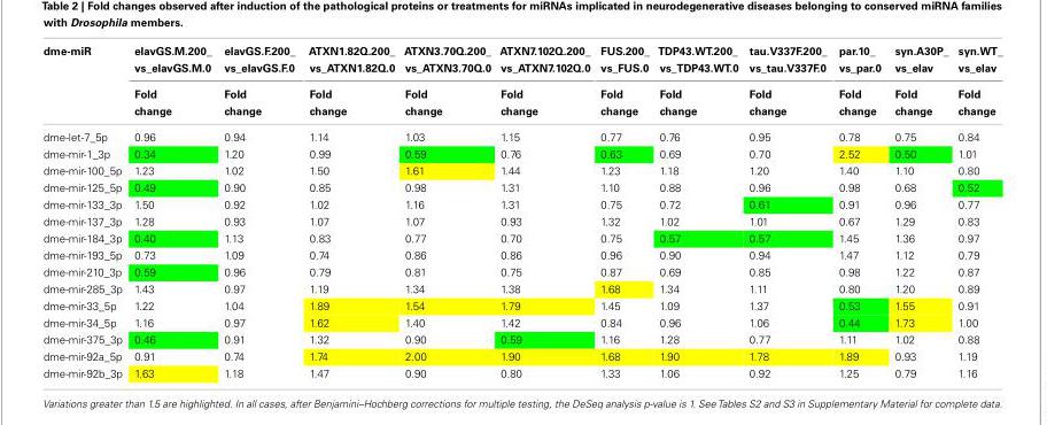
<table><thead><tr><td rowspan="2">dme-miR</td><td rowspan="2">elavGS.M.200_ vs_elavGS.M.0 Fold change</td><td rowspan="2">elavGS.F.200_ vs_elavGS.F.0 Fold change</td><td rowspan="2">ATXN1.82Q.200_ vs_ATXN1.82Q.0 Fold change</td><td rowspan="2">ATXN3.70Q.200_ vs_ATXN3.70Q.0 Fold change</td><td rowspan="2">ATXN7.102Q.200_ vs_ATXN7.102Q.0 Fold change</td><td rowspan="2">FUS.200_ vs_FUS.0 Fold change</td><td rowspan="2">TDP43.WT.200_ vs_TDP43.WT.0 Fold change</td><td rowspan="2">tau.V337F.200_ vs_tau.V337F.0 Fold change</td><td rowspan="2">par.10_ vs_par.0 Fold change</td><td rowspan="2">syn.A30P_ vs_elav Fold change</td><td rowspan="2">syn.WT_ vs_elav Fold change</td></tr><tr></tr></thead><tbody><tr><td>dme-let-7_5p</td><td>0.96</td><td>0.94</td><td>1.14</td><td>1.03</td><td>1.15</td><td>0.77</td><td>0.76</td><td>0.95</td><td>0.78</td><td>0.75</td><td>0.84</td></tr><tr><td>dme-mir-1_3p</td><td>0.34</td><td>1.20</td><td>0.99</td><td>0.59</td><td>0.76</td><td>0.63</td><td>0.69</td><td>0.70</td><td>2.52</td><td>0.50</td><td>1.01</td></tr><tr><td>dme-mir-100_5p</td><td>1.23</td><td>1.02</td><td>1.50</td><td>1.61</td><td>1.44</td><td>1.23</td><td>1.18</td><td>1.20</td><td>1.40</td><td>1.10</td><td>0.80</td></tr><tr><td>dme-mir-125_5p</td><td>0.49</td><td>0.90</td><td>0.85</td><td>0.98</td><td>1.31</td><td>1.10</td><td>0.88</td><td>0.96</td><td>0.98</td><td>0.68</td><td>0.52</td></tr><tr><td>dme-mir-133_3p</td><td>1.50</td><td>0.92</td><td>1.02</td><td>1.16</td><td>1.31</td><td>0.75</td><td>0.72</td><td>0.61</td><td>0.91</td><td>0.96</td><td>0.77</td></tr><tr><td>dme-mir-137_3p</td><td>1.28</td><td>0.93</td><td>1.07</td><td>1.07</td><td>0.93</td><td>1.32</td><td>1.02</td><td>1.01</td><td>0.67</td><td>1.29</td><td>0.83</td></tr><tr><td>dme-mir-184_3p</td><td>0.40</td><td>1.13</td><td>0.83</td><td>0.77</td><td>0.70</td><td>0.75</td><td>0.57</td><td>0.57</td><td>1.45</td><td>1.36</td><td>0.97</td></tr><tr><td>dme-mir-193_5p</td><td>0.73</td><td>1.09</td><td>0.74</td><td>0.86</td><td>0.86</td><td>0.96</td><td>0.90</td><td>0.94</td><td>1.47</td><td>1.12</td><td>0.79</td></tr><tr><td>dme-mir-210_3p</td><td>0.59</td><td>0.96</td><td>0.79</td><td>0.81</td><td>0.75</td><td>0.87</td><td>0.69</td><td>0.85</td><td>0.98</td><td>1.22</td><td>0.87</td></tr><tr><td>dme-mir-285_3p</td><td>1.43</td><td>0.97</td><td>1.19</td><td>1.34</td><td>1.38</td><td>1.68</td><td>1.34</td><td>1.11</td><td>0.80</td><td>1.20</td><td>0.89</td></tr><tr><td>dme-mir-33_5p</td><td>1.22</td><td>1.04</td><td>1.89</td><td>1.54</td><td>1.79</td><td>1.45</td><td>1.09</td><td>1.37</td><td>0.53</td><td>1.55</td><td>0.91</td></tr><tr><td>dme-mir-34_5p</td><td>1.16</td><td>0.97</td><td>1.62</td><td>1.40</td><td>1.42</td><td>0.84</td><td>0.96</td><td>1.06</td><td>0.44</td><td>1.73</td><td>1.00</td></tr><tr><td>dme-mir-375_3p</td><td>0.46</td><td>0.91</td><td>1.32</td><td>0.90</td><td>0.59</td><td>1.16</td><td>1.28</td><td>0.77</td><td>1.11</td><td>1.02</td><td>0.88</td></tr><tr><td>dme-mir-92a_5p</td><td>0.91</td><td>0.74</td><td>1.74</td><td>2.00</td><td>1.90</td><td>1.68</td><td>1.90</td><td>1.78</td><td>1.89</td><td>0.93</td><td>1.19</td></tr><tr><td>dme-mir-92b_3p</td><td>1.63</td><td>1.18</td><td>1.47</td><td>0.90</td><td>0.80</td><td>1.33</td><td>1.06</td><td>0.92</td><td>1.25</td><td>0.79</td><td>1.16</td></tr></tbody></table>